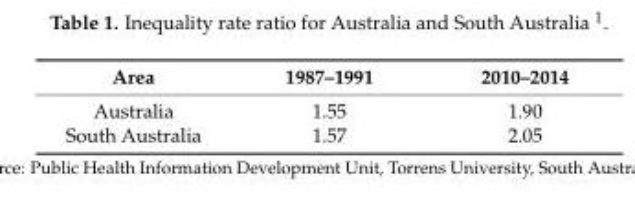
<table><thead><tr><td>Area</td><td>1987–1991</td><td>2010–2014</td></tr></thead><tbody><tr><td>Australia</td><td>1.55</td><td>1.90</td></tr><tr><td>South Australia</td><td>1.57</td><td>2.05</td></tr></tbody></table>